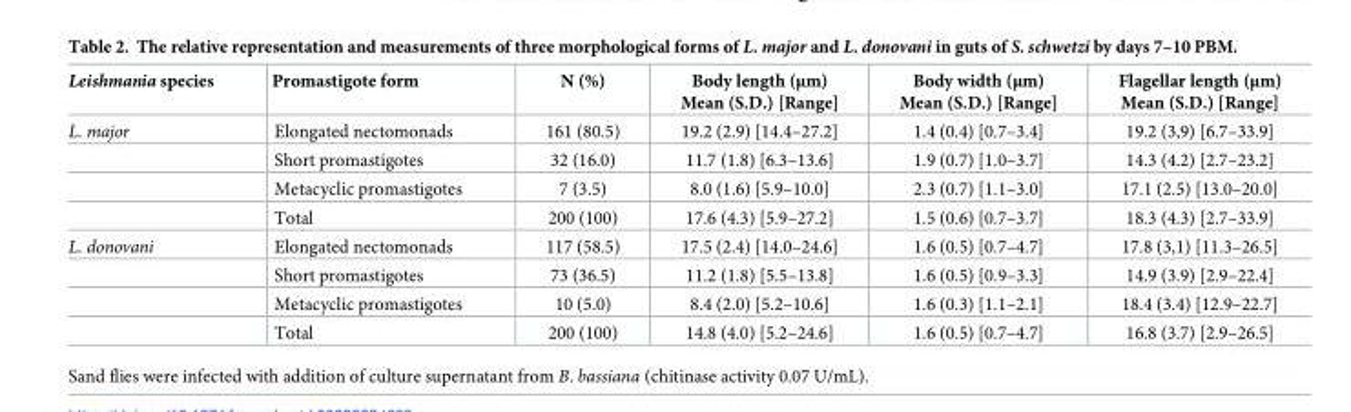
<table><thead><tr><td>Leishmania species</td><td>Promastigote form</td><td>N (%)</td><td>Body length (μm) Mean (S.D.) [Range]</td><td>Body width (μm) Mean (S.D.) [Range]</td><td>Flagellar length (μm) Mean (S.D.) [Range]</td></tr></thead><tbody><tr><td rowspan="4">L. major</td><td>Elongated nectomonads</td><td>161 (80.5)</td><td>19.2 (2.9) [14.4–27.2]</td><td>1.4 (0.4) [0.7–3.4]</td><td>19.2 (3,9) [6.7–33.9]</td></tr><tr><td>Short promastigotes</td><td>32 (16.0)</td><td>11.7 (1.8) [6.3–13.6]</td><td>1.9 (0.7) [1.0–3.7]</td><td>14.3 (4.2) [2.7–23.2]</td></tr><tr><td>Metacyclic promastigotes</td><td>7 (3.5)</td><td>8.0 (1.6) [5.9–10.0]</td><td>2.3 (0.7) [1.1–3.0]</td><td>17.1 (2.5) [13.0–20.0]</td></tr><tr><td>Total</td><td>200 (100)</td><td>17.6 (4.3) [5.9–27.2]</td><td>1.5 (0.6) [0.7–3.7]</td><td>18.3 (4.3) [2.7–33.9]</td></tr><tr><td rowspan="4">L. donovani</td><td>Elongated nectomonads</td><td>117 (58.5)</td><td>17.5 (2.4) [14.0–24.6]</td><td>1.6 (0.5) [0.7–4.7]</td><td>17.8 (3,1) [11.3–26.5]</td></tr><tr><td>Short promastigotes</td><td>73 (36.5)</td><td>11.2 (1.8) [5.5–13.8]</td><td>1.6 (0.5) [0.9–3.3]</td><td>14.9 (3.9) [2.9–22.4]</td></tr><tr><td>Metacyclic promastigotes</td><td>10 (5.0)</td><td>8.4 (2.0) [5.2–10.6]</td><td>1.6 (0.3) [1.1–2.1]</td><td>18.4 (3.4) [12.9–22.7]</td></tr><tr><td>Total</td><td>200 (100)</td><td>14.8 (4.0) [5.2–24.6]</td><td>1.6 (0.5) [0.7–4.7]</td><td>16.8 (3.7) [2.9–26.5]</td></tr></tbody></table>